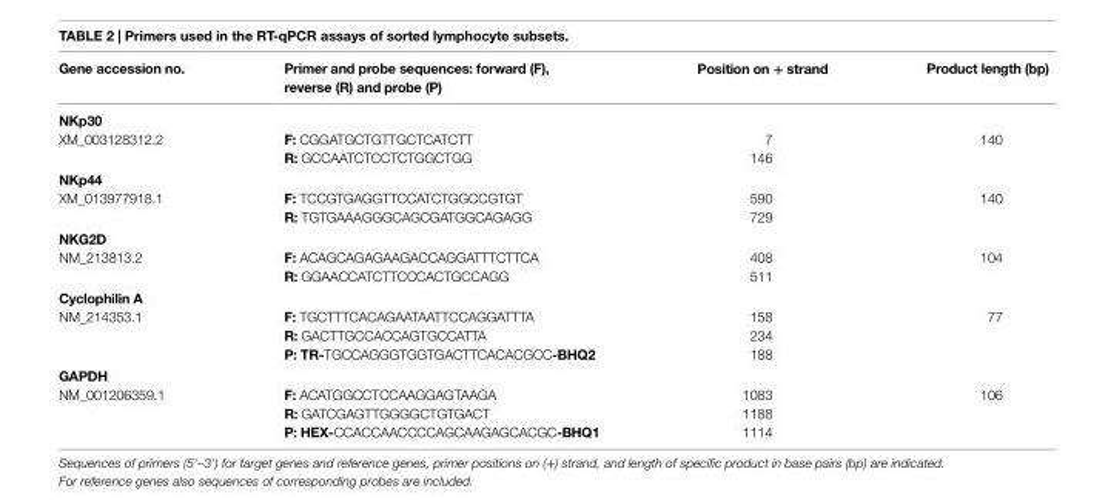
<table><thead><tr><td>gene accession no.</td><td>Primer and probe sequences: forward (F), reverse (r) and probe (P)</td><td>Position on + strand</td><td>Product length (bp)</td></tr></thead><tbody><tr><td colspan="4">nKp30</td></tr><tr><td rowspan="2">XM_003128312.2</td><td>F: CGGATGCTGTTGCTCATCTT</td><td>7</td><td>140</td></tr><tr><td>r: GCCAATCTCCTCTGGCTGG</td><td>146</td><td></td></tr><tr><td colspan="4">nKp44</td></tr><tr><td rowspan="2">XM_013977918.1</td><td>F: TCCGTGAGGTTCCATCTGGCCGTGT</td><td>590</td><td>140</td></tr><tr><td>r: TGTGAAAGGGCAGCGATGGCAGAGG</td><td>729</td><td></td></tr><tr><td colspan="4">nKg2D</td></tr><tr><td rowspan="2">NM_213813.2</td><td>F: ACAGCAGAGAAGACCAGGATTTCTTCA</td><td>408</td><td>104</td></tr><tr><td>r: GGAACCATCTTCCCACTGCCAGG</td><td>511</td><td></td></tr><tr><td colspan="4">cyclophilin a</td></tr><tr><td rowspan="3">NM_214353.1</td><td>F: TGCTTTCACAGAATAATTCCAGGATTTA</td><td>158</td><td>77</td></tr><tr><td>r: GACTTGCCACCAGTGCCATTA</td><td>234</td><td></td></tr><tr><td>P: Tr-TGCCAGGGTGGTGACTTCACACGCC-bhQ2</td><td>188</td><td></td></tr><tr><td colspan="4">gaPDh</td></tr><tr><td rowspan="3">NM_001206359.1</td><td>F: ACATGGCCTCCAAGGAGTAAGA</td><td>1083</td><td>106</td></tr><tr><td>r: GATCGAGTTGGGGCTGTGACT</td><td>1188</td><td></td></tr><tr><td>P: heX-CCACCAACCCCAGCAAGAGCACGC-bhQ1</td><td>1114</td><td></td></tr></tbody></table>